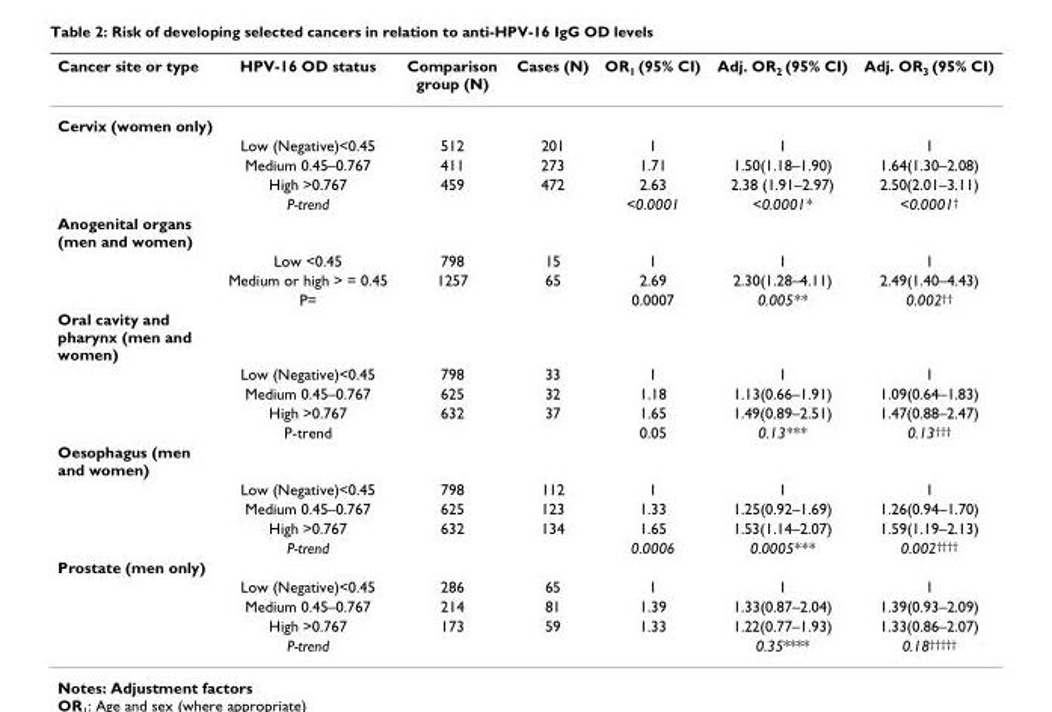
<table><thead><tr><td>Cancer site or type</td><td>HPV-16 OD status</td><td>Comparison group (N)</td><td>Cases (N)</td><td>OR<sub>1</sub> (95% CI)</td><td>Adj. OR<sub>2</sub> (95% CI)</td><td>Adj. OR<sub>3</sub> (95% CI)</td></tr></thead><tbody><tr><td colspan="7">Cervix (women only)</td></tr><tr><td></td><td>Low (Negative)&lt;0.45</td><td>512</td><td>201</td><td>1</td><td>1</td><td>1</td></tr><tr><td></td><td>Medium 0.45–0.767</td><td>411</td><td>273</td><td>1.71</td><td>1.50(1.18–1.90)</td><td>1.64(1.30–2.08)</td></tr><tr><td></td><td>High &gt;0.767</td><td>459</td><td>472</td><td>2.63</td><td>2.38 (1.91–2.97)</td><td>2.50(2.01–3.11)</td></tr><tr><td></td><td>P-trend</td><td></td><td></td><td>&lt;0.0001</td><td>&lt;0.0001*</td><td>&lt;0.0001<sup>†</sup></td></tr><tr><td colspan="7">Anogenital organs (men and women)</td></tr><tr><td></td><td>Low &lt;0.45</td><td>798</td><td>15</td><td>1</td><td>1</td><td>1</td></tr><tr><td></td><td>Medium or high &gt; = 0.45</td><td>1257</td><td>65</td><td>2.69</td><td>2.30(1.28–4.11)</td><td>2.49(1.40–4.43)</td></tr><tr><td></td><td>P=</td><td></td><td></td><td>0.0007</td><td>0.005**</td><td>0.002<sup>††</sup></td></tr><tr><td colspan="7">Oral cavity and pharynx (men and women)</td></tr><tr><td></td><td>Low (Negative)&lt;0.45</td><td>798</td><td>33</td><td>1</td><td>1</td><td>1</td></tr><tr><td></td><td>Medium 0.45–0.767</td><td>625</td><td>32</td><td>1.18</td><td>1.13(0.66–1.91)</td><td>1.09(0.64–1.83)</td></tr><tr><td></td><td>High &gt;0.767</td><td>632</td><td>37</td><td>1.65</td><td>1.49(0.89–2.51)</td><td>1.47(0.88–2.47)</td></tr><tr><td></td><td>P-trend</td><td></td><td></td><td>0.05</td><td>0.13***</td><td>0.13<sup>†††</sup></td></tr><tr><td colspan="7">Oesophagus (men and women)</td></tr><tr><td></td><td>Low (Negative)&lt;0.45</td><td>798</td><td>112</td><td>1</td><td>1</td><td>1</td></tr><tr><td></td><td>Medium 0.45–0.767</td><td>625</td><td>123</td><td>1.33</td><td>1.25(0.92–1.69)</td><td>1.26(0.94–1.70)</td></tr><tr><td></td><td>High &gt;0.767</td><td>632</td><td>134</td><td>1.65</td><td>1.53(1.14–2.07)</td><td>1.59(1.19–2.13)</td></tr><tr><td></td><td>P-trend</td><td></td><td></td><td>0.0006</td><td>0.0005***</td><td>0.002<sup>††††</sup></td></tr><tr><td colspan="7">Prostate (men only)</td></tr><tr><td></td><td>Low (Negative)&lt;0.45</td><td>286</td><td>65</td><td>1</td><td>1</td><td>1</td></tr><tr><td></td><td>Medium 0.45–0.767</td><td>214</td><td>81</td><td>1.39</td><td>1.33(0.87–2.04)</td><td>1.39(0.93–2.09)</td></tr><tr><td></td><td>High &gt;0.767</td><td>173</td><td>59</td><td>1.33</td><td>1.22(0.77–1.93)</td><td>1.33(0.86–2.07)</td></tr><tr><td></td><td>P-trend</td><td></td><td></td><td></td><td>0.35****</td><td>0.18<sup>†††††</sup></td></tr></tbody></table>